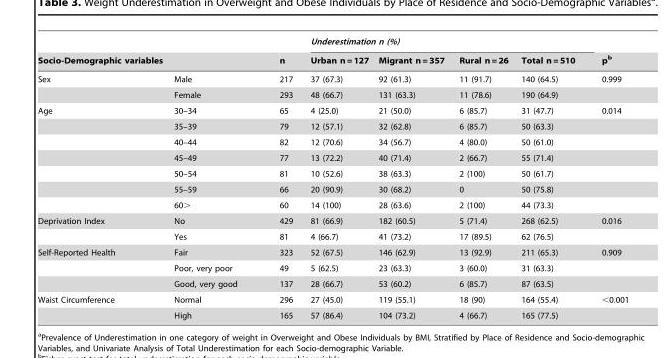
<table><thead><tr><td></td><td></td><td rowspan="2">n</td><td colspan="4">Underestimation n (%)</td><td rowspan="2">p<sup>b</sup></td></tr><tr><td colspan="2">Socio-Demographic variables</td><td>Urban n = 127</td><td>Migrant n = 357</td><td>Rural n = 26</td><td>Total n = 510</td></tr></thead><tbody><tr><td rowspan="2">Sex</td><td>Male</td><td>217</td><td>37 (67.3)</td><td>92 (61.3)</td><td>11 (91.7)</td><td>140 (64.5)</td><td>0.999</td></tr><tr><td>Female</td><td>293</td><td>48 (66.7)</td><td>131 (63.3)</td><td>11 (78.6)</td><td>190 (64.9)</td><td></td></tr><tr><td rowspan="7">Age</td><td>30–34</td><td>65</td><td>4 (25.0)</td><td>21 (50.0)</td><td>6 (85.7)</td><td>31 (47.7)</td><td>0.014</td></tr><tr><td>35–39</td><td>79</td><td>12 (57.1)</td><td>32 (62.8)</td><td>6 (85.7)</td><td>50 (63.3)</td><td></td></tr><tr><td>40–44</td><td>82</td><td>12 (70.6)</td><td>34 (56.7)</td><td>4 (80.0)</td><td>50 (61.0)</td><td></td></tr><tr><td>45–49</td><td>77</td><td>13 (72.2)</td><td>40 (71.4)</td><td>2 (66.7)</td><td>55 (71.4)</td><td></td></tr><tr><td>50–54</td><td>81</td><td>10 (52.6)</td><td>38 (63.3)</td><td>2 (100)</td><td>50 (61.7)</td><td></td></tr><tr><td>55–59</td><td>66</td><td>20 (90.9)</td><td>30 (68.2)</td><td>0</td><td>50 (75.8)</td><td></td></tr><tr><td>60&gt;</td><td>60</td><td>14 (100)</td><td>28 (63.6)</td><td>2 (100)</td><td>44 (73.3)</td><td></td></tr><tr><td rowspan="2">Deprivation Index</td><td>No</td><td>429</td><td>81 (66.9)</td><td>182 (60.5)</td><td>5 (71.4)</td><td>268 (62.5)</td><td>0.016</td></tr><tr><td>Yes</td><td>81</td><td>4 (66.7)</td><td>41 (73.2)</td><td>17 (89.5)</td><td>62 (76.5)</td><td></td></tr><tr><td rowspan="3">Self-Reported Health</td><td>Fair</td><td>323</td><td>52 (67.5)</td><td>146 (62.9)</td><td>13 (92.9)</td><td>211 (65.3)</td><td>0.909</td></tr><tr><td>Poor, very poor</td><td>49</td><td>5 (62.5)</td><td>23 (63.3)</td><td>3 (60.0)</td><td>31 (63.3)</td><td></td></tr><tr><td>Good, very good</td><td>137</td><td>28 (66.7)</td><td>53 (60.2)</td><td>6 (85.7)</td><td>87 (63.5)</td><td></td></tr><tr><td rowspan="2">Waist Circumference</td><td>Normal</td><td>296</td><td>27 (45.0)</td><td>119 (55.1)</td><td>18 (90)</td><td>164 (55.4)</td><td>&lt;0.001</td></tr><tr><td>High</td><td>165</td><td>57 (86.4)</td><td>104 (73.2)</td><td>4 (66.7)</td><td>165 (77.5)</td><td></td></tr></tbody></table>